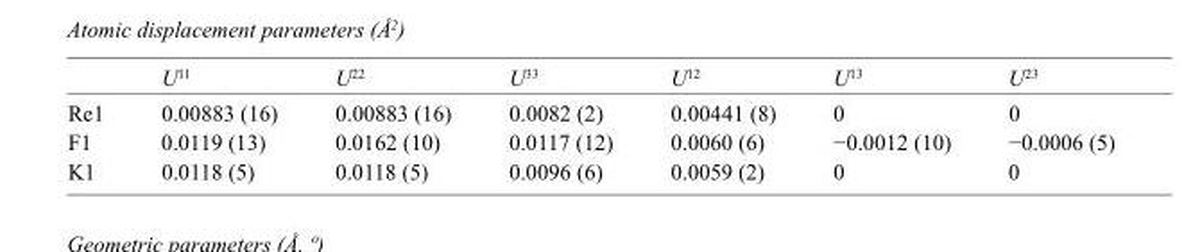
<table><thead><tr><td></td><td>U<sup>11</sup></td><td>U<sup>22</sup></td><td>U<sup>33</sup></td><td>U<sup>12</sup></td><td>U<sup>13</sup></td><td>U<sup>23</sup></td></tr></thead><tbody><tr><td>Re1</td><td>0.00883 (16)</td><td>0.00883 (16)</td><td>0.0082 (2)</td><td>0.00441 (8)</td><td>0</td><td>0</td></tr><tr><td>F1</td><td>0.0119 (13)</td><td>0.0162 (10)</td><td>0.0117 (12)</td><td>0.0060 (6)</td><td>−0.0012 (10)</td><td>−0.0006 (5)</td></tr><tr><td>K1</td><td>0.0118 (5)</td><td>0.0118 (5)</td><td>0.0096 (6)</td><td>0.0059 (2)</td><td>0</td><td>0</td></tr></tbody></table>